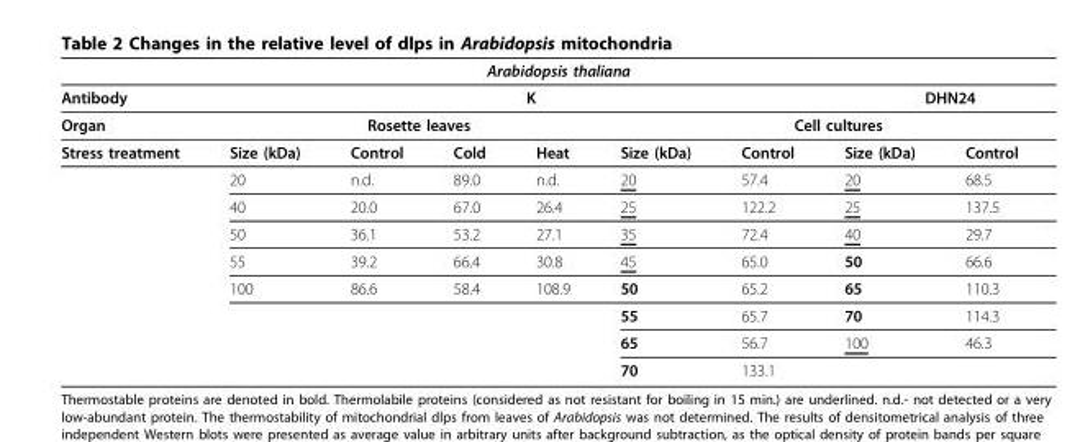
<table><thead><tr><td colspan="9">Arabidopsis thaliana</td></tr><tr><td rowspan="3">Antibody Organ Stress treatment</td><td colspan="6">K</td><td colspan="2">DHN24</td></tr><tr><td colspan="4">Rosette leaves</td><td colspan="4">Cell cultures</td></tr><tr><td>Size (kDa)</td><td>Control</td><td>Cold</td><td>Heat</td><td>Size (kDa)</td><td>Control</td><td>Size (kDa)</td><td>Control</td></tr></thead><tbody><tr><td></td><td>20</td><td>n.d.</td><td>89.0</td><td>n.d.</td><td>20</td><td>57.4</td><td>20</td><td>68.5</td></tr><tr><td></td><td>40</td><td>20.0</td><td>67.0</td><td>26.4</td><td>25</td><td>122.2</td><td>25</td><td>137.5</td></tr><tr><td></td><td>50</td><td>36.1</td><td>53.2</td><td>27.1</td><td>35</td><td>72.4</td><td>40</td><td>29.7</td></tr><tr><td></td><td>55</td><td>39.2</td><td>66.4</td><td>30.8</td><td>45</td><td>65.0</td><td>50</td><td>66.6</td></tr><tr><td></td><td>100</td><td>86.6</td><td>58.4</td><td>108.9</td><td>50</td><td>65.2</td><td>65</td><td>110.3</td></tr><tr><td></td><td></td><td></td><td></td><td></td><td>55</td><td>65.7</td><td>70</td><td>114.3</td></tr><tr><td></td><td></td><td></td><td></td><td></td><td>65</td><td>56.7</td><td>100</td><td>46.3</td></tr><tr><td></td><td></td><td></td><td></td><td></td><td>70</td><td>133.1</td><td></td><td></td></tr></tbody></table>